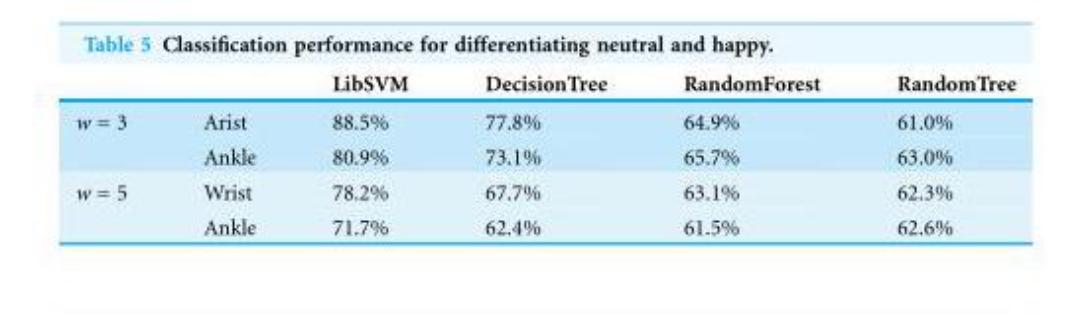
<table><thead><tr><td></td><td></td><td>LibSVM</td><td>DecisionTree</td><td>RandomForest</td><td>RandomTree</td></tr></thead><tbody><tr><td rowspan="2">w = 3</td><td>Arist</td><td>88.5%</td><td>77.8%</td><td>64.9%</td><td>61.0%</td></tr><tr><td>Ankle</td><td>80.9%</td><td>73.1%</td><td>65.7%</td><td>63.0%</td></tr><tr><td rowspan="2">w = 5</td><td>Wrist</td><td>78.2%</td><td>67.7%</td><td>63.1%</td><td>62.3%</td></tr><tr><td>Ankle</td><td>71.7%</td><td>62.4%</td><td>61.5%</td><td>62.6%</td></tr></tbody></table>